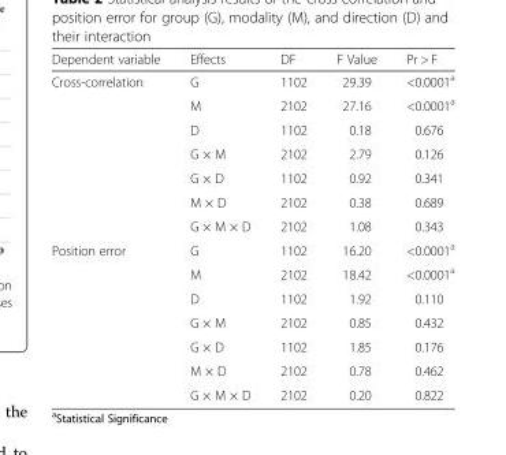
<table><thead><tr><td>Dependent variable</td><td>Effects</td><td>DF</td><td>F Value</td><td>Pr &gt; F</td></tr></thead><tbody><tr><td rowspan="7">Cross-correlation</td><td>G</td><td>1102</td><td>29.39</td><td>&lt;0.0001<sup>a</sup></td></tr><tr><td>M</td><td>2102</td><td>27.16</td><td>&lt;0.0001<sup>a</sup></td></tr><tr><td>D</td><td>1102</td><td>0.18</td><td>0.676</td></tr><tr><td>G × M</td><td>2102</td><td>2.79</td><td>0.126</td></tr><tr><td>G × D</td><td>1102</td><td>0.92</td><td>0.341</td></tr><tr><td>M × D</td><td>2102</td><td>0.38</td><td>0.689</td></tr><tr><td>G × M × D</td><td>2102</td><td>1.08</td><td>0.343</td></tr><tr><td rowspan="7">Position error</td><td>G</td><td>1102</td><td>16.20</td><td>&lt;0.0001<sup>a</sup></td></tr><tr><td>M</td><td>2102</td><td>18.42</td><td>&lt;0.0001<sup>a</sup></td></tr><tr><td>D</td><td>1102</td><td>1.92</td><td>0.110</td></tr><tr><td>G × M</td><td>2102</td><td>0.85</td><td>0.432</td></tr><tr><td>G × D</td><td>1102</td><td>1.85</td><td>0.176</td></tr><tr><td>M × D</td><td>2102</td><td>0.78</td><td>0.462</td></tr><tr><td>G × M × D</td><td>2102</td><td>0.20</td><td>0.822</td></tr></tbody></table>